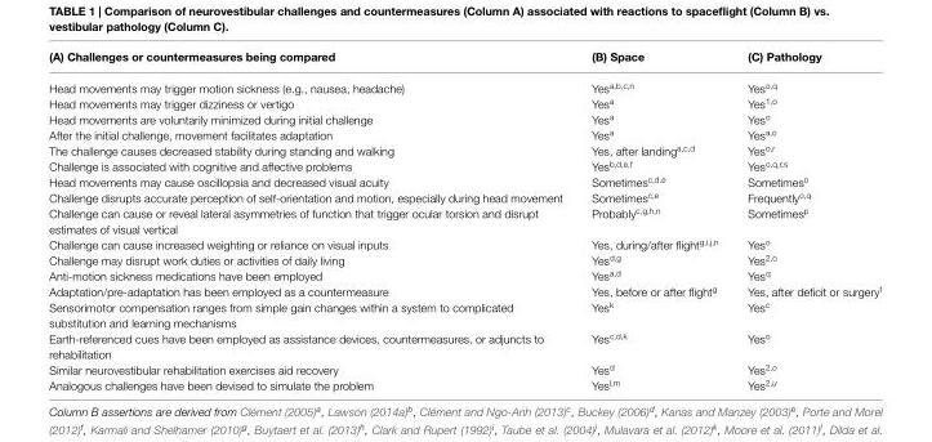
<table><thead><tr><td>(A) Challenges or countermeasures being compared</td><td>(B) Space</td><td>(C) Pathology</td></tr></thead><tbody><tr><td>Head movements may trigger motion sickness (e.g., nausea, headache)</td><td>Yes<sup>a,b,c,n</sup></td><td>Yes<sup>o,q</sup></td></tr><tr><td>Head movements may trigger dizziness or vertigo</td><td>Yes<sup>a</sup></td><td>Yes<sup>1,o</sup></td></tr><tr><td>Head movements are voluntarily minimized during initial challenge</td><td>Yes<sup>a</sup></td><td>Yes<sup>o</sup></td></tr><tr><td>After the initial challenge, movement facilitates adaptation</td><td>Yes<sup>a</sup></td><td>Yes<sup>a,o</sup></td></tr><tr><td>The challenge causes decreased stability during standing and walking</td><td>Yes, after landing<sup>a,c,d</sup></td><td>Yes<sup>o,r</sup></td></tr><tr><td>Challenge is associated with cognitive and affective problems</td><td>Yes<sup>b,d,e,f</sup></td><td>Yes<sup>o,q,r,s</sup></td></tr><tr><td>Head movements may cause oscillopsia and decreased visual acuity</td><td>Sometimes<sup>c,d,e</sup></td><td>Sometimes<sup>o</sup></td></tr><tr><td>Challenge disrupts accurate perception of self-orientation and motion, especially during head movement</td><td>Sometimes<sup>c,e</sup></td><td>Frequently<sup>o,q</sup></td></tr><tr><td>Challenge can cause or reveal lateral asymmetries of function that trigger ocular torsion and disrupt estimates of visual vertical</td><td>Probably<sup>c,g,h,n</sup></td><td>Sometimes<sup>p</sup></td></tr><tr><td>Challenge can cause increased weighting or reliance on visual inputs</td><td>Yes, during/after flight<sup>g,i,j,n</sup></td><td>Yes<sup>o</sup></td></tr><tr><td>Challenge may disrupt work duties or activities of daily living</td><td>Yes<sup>d,g</sup></td><td>Yes<sup>2,o</sup></td></tr><tr><td>Anti-motion sickness medications have been employed</td><td>Yes<sup>a,d</sup></td><td>Yes<sup>q</sup></td></tr><tr><td>Adaptation/pre-adaptation has been employed as a countermeasure</td><td>Yes, before or after flight<sup>g</sup></td><td>Yes, after deficit or surgery<sup>t</sup></td></tr><tr><td>Sensorimotor compensation ranges from simple gain changes within a system to complicated substitution and learning mechanisms</td><td>Yes<sup>k</sup></td><td>Yes<sup>c</sup></td></tr><tr><td>Earth-referenced cues have been employed as assistance devices, countermeasures, or adjuncts to rehabilitation</td><td>Yes<sup>c,d,k</sup></td><td>Yes<sup>o</sup></td></tr><tr><td>Similar neurovestibular rehabilitation exercises aid recovery</td><td>Yes<sup>d</sup></td><td>Yes<sup>2,o</sup></td></tr><tr><td>Analogous challenges have been devised to simulate the problem</td><td>Yes<sup>l,m</sup></td><td>Yes<sup>2,u</sup></td></tr></tbody></table>